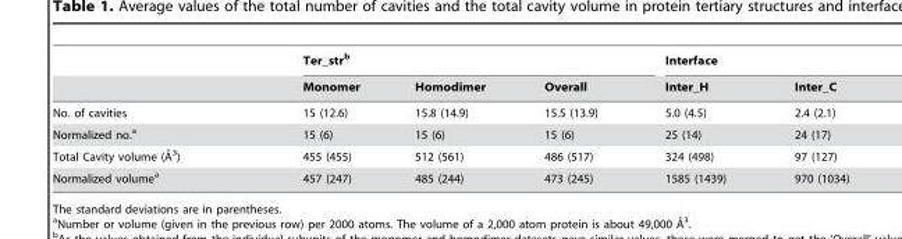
<table><thead><tr><td rowspan="2"></td><td colspan="3">Ter_str<sup>b</sup></td><td colspan="2">Interface</td></tr><tr><td>Monomer</td><td>Homodimer</td><td>Overall</td><td>Inter_H</td><td>Inter_C</td></tr></thead><tbody><tr><td>No. of cavities</td><td>15 (12.6)</td><td>15.8 (14.9)</td><td>15.5 (13.9)</td><td>5.0 (4.5)</td><td>2.4 (2.1)</td></tr><tr><td>Normalized no.<sup>a</sup></td><td>15 (6)</td><td>15 (6)</td><td>15 (6)</td><td>25 (14)</td><td>24 (17)</td></tr><tr><td>Total Cavity volume (A˚ 3)</td><td>455 (455)</td><td>512 (561)</td><td>486 (517)</td><td>324 (498)</td><td>97 (127)</td></tr><tr><td>Normalized volume<sup>a</sup></td><td>457 (247)</td><td>485 (244)</td><td>473 (245)</td><td>1585 (1439)</td><td>970 (1034)</td></tr></tbody></table>